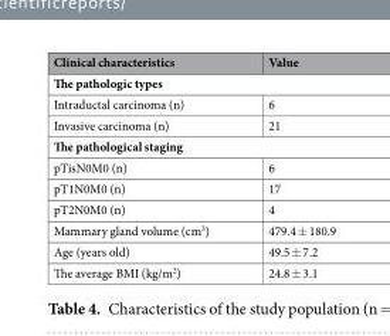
<table><thead><tr><td>Clinical characteristics</td><td>Value</td></tr></thead><tbody><tr><td colspan="2">The pathologic types</td></tr><tr><td>Intraductal carcinoma (n)</td><td>6</td></tr><tr><td>Invasive carcinoma (n)</td><td>21</td></tr><tr><td colspan="2">The pathological staging</td></tr><tr><td>pTisN0M0 (n)</td><td>6</td></tr><tr><td>pT1N0M0 (n)</td><td>17</td></tr><tr><td>pT2N0M0 (n)</td><td>4</td></tr><tr><td>Mammary gland volume (cm<sup>3</sup>)</td><td>479.4 ± 180.9</td></tr><tr><td>Age (years old)</td><td>49.5 ± 7.2</td></tr><tr><td>The average BMI (kg/m<sup>2</sup>)</td><td>24.8 ± 3.1</td></tr></tbody></table>